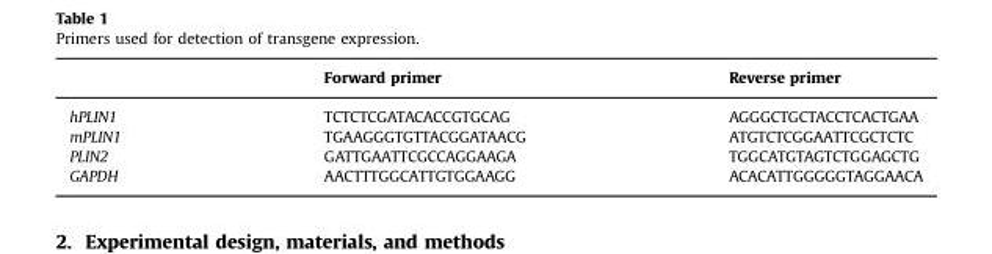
<table><thead><tr><td></td><td>Forward primer</td><td>Reverse primer</td></tr></thead><tbody><tr><td>hPLIN1</td><td>TCTCTCGATACACCGTGCAG</td><td>AGGGCTGCTACCTCACTGAA</td></tr><tr><td>mPLIN1</td><td>TGAAGGGTGTTACGGATAACG</td><td>ATGTCTCGGAATTCGCTCTC</td></tr><tr><td>PLIN2</td><td>GATTGAATTCGCCAGGAAGA</td><td>TGGCATGTAGTCTGGAGCTG</td></tr><tr><td>GAPDH</td><td>AACTTTGGCATTGTGGAAGG</td><td>ACACATTGGGGGTAGGAACA</td></tr></tbody></table>